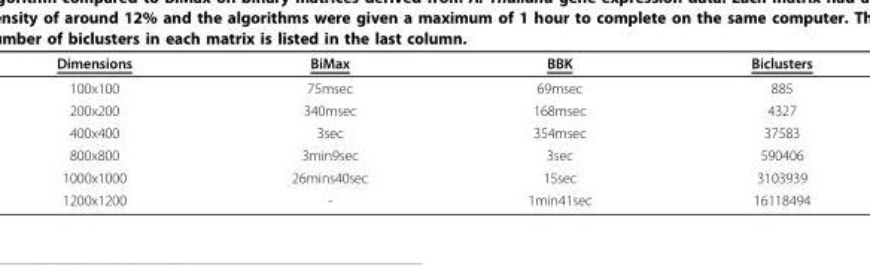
<table><thead><tr><td>Dimensions</td><td>BiMax</td><td>BBK</td><td>Biclusters</td></tr></thead><tbody><tr><td>100x100</td><td>75msec</td><td>69msec</td><td>885</td></tr><tr><td>200x200</td><td>340msec</td><td>168msec</td><td>4327</td></tr><tr><td>400x400</td><td>3sec</td><td>354msec</td><td>37583</td></tr><tr><td>800x800</td><td>3min9sec</td><td>3sec</td><td>590406</td></tr><tr><td>1000x1000</td><td>26mins40sec</td><td>15sec</td><td>3103939</td></tr><tr><td>1200x1200</td><td>-</td><td>1min41sec</td><td>16118494</td></tr></tbody></table>